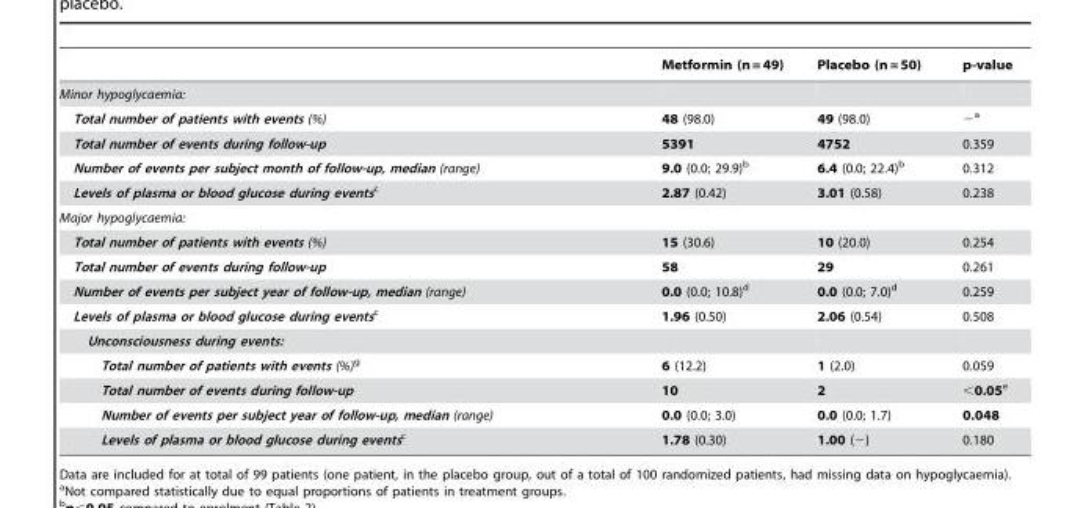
<table><thead><tr><td></td><td>Metformin (n = 49)</td><td>Placebo (n = 50)</td><td>p-value</td></tr></thead><tbody><tr><td colspan="4">Minor hypoglycaemia:</td></tr><tr><td>Total number of patients with events (%)</td><td>48 (98.0)</td><td>49 (98.0)</td><td>−a</td></tr><tr><td>Total number of events during follow-up</td><td>5391</td><td>4752</td><td>0.359</td></tr><tr><td>Number of events per subject month of follow-up, median (range)</td><td>9.0 (0.0; 29.9)<sup>b</sup></td><td>6.4 (0.0; 22.4)<sup>b</sup></td><td>0.312</td></tr><tr><td>Levels of plasma or blood glucose during eventsc</td><td>2.87 (0.42)</td><td>3.01 (0.58)</td><td>0.238</td></tr><tr><td colspan="4">Major hypoglycaemia:</td></tr><tr><td>Total number of patients with events (%)</td><td>15 (30.6)</td><td>10 (20.0)</td><td>0.254</td></tr><tr><td>Total number of events during follow-up</td><td>58</td><td>29</td><td>0.261</td></tr><tr><td>Number of events per subject year of follow-up, median (range)</td><td>0.0 (0.0; 10.8)<sup>d</sup></td><td>0.0 (0.0; 7.0)<sup>d</sup></td><td>0.259</td></tr><tr><td>Levels of plasma or blood glucose during eventsc</td><td>1.96 (0.50)</td><td>2.06 (0.54)</td><td>0.508</td></tr><tr><td colspan="4">Unconsciousness during events:</td></tr><tr><td>Total number of patients with events (%)<sup>g</sup></td><td>6 (12.2)</td><td>1 (2.0)</td><td>0.059</td></tr><tr><td>Total number of events during follow-up</td><td>10</td><td>2</td><td>&lt;0.05e</td></tr><tr><td>Number of events per subject year of follow-up, median (range)</td><td>0.0 (0.0; 3.0)</td><td>0.0 (0.0; 1.7)</td><td>0.048</td></tr><tr><td>Levels of plasma or blood glucose during eventsc</td><td>1.78 (0.30)</td><td>1.00 (−)</td><td>0.180</td></tr></tbody></table>